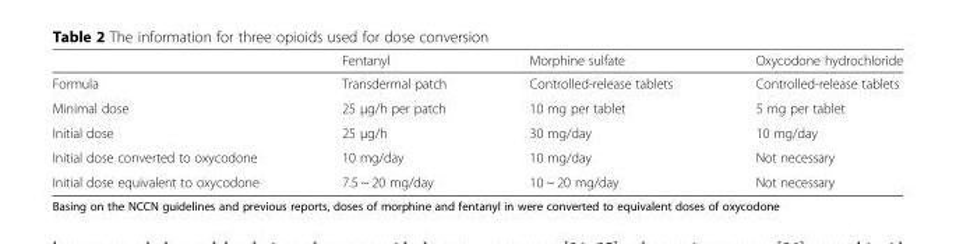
<table><thead><tr><td></td><td>Fentanyl</td><td>Morphine sulfate</td><td>Oxycodone hydrochloride</td></tr></thead><tbody><tr><td>Formula</td><td>Transdermal patch</td><td>Controlled-release tablets</td><td>Controlled-release tablets</td></tr><tr><td>Minimal dose</td><td>25 μg/h per patch</td><td>10 mg per tablet</td><td>5 mg per tablet</td></tr><tr><td>Initial dose</td><td>25 μg/h</td><td>30 mg/day</td><td>10 mg/day</td></tr><tr><td>Initial dose converted to oxycodone</td><td>10 mg/day</td><td>10 mg/day</td><td>Not necessary</td></tr><tr><td>Initial dose equivalent to oxycodone</td><td>7.5 ~ 20 mg/day</td><td>10 ~ 20 mg/day</td><td>Not necessary</td></tr></tbody></table>